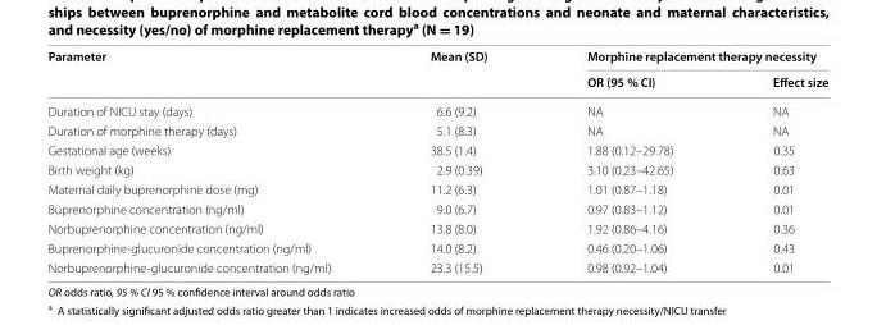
<table><thead><tr><td rowspan="2">Parameter</td><td rowspan="2">Mean (SD)</td><td colspan="2">Morphine replacement therapy necessity</td></tr><tr><td>OR (95 % CI)</td><td>Effect size</td></tr></thead><tbody><tr><td>Duration of NICU stay (days)</td><td>6.6 (9.2)</td><td>NA</td><td>NA</td></tr><tr><td>Duration of morphine therapy (days)</td><td>5.1 (8.3)</td><td>NA</td><td>NA</td></tr><tr><td>Gestational age (weeks)</td><td>38.5 (1.4)</td><td>1.88 (0.12–29.78)</td><td>0.35</td></tr><tr><td>Birth weight (kg)</td><td>2.9 (0.39)</td><td>3.10 (0.23–42.65)</td><td>0.63</td></tr><tr><td>Maternal daily buprenorphine dose (mg)</td><td>11.2 (6.3)</td><td>1.01 (0.87–1.18)</td><td>0.01</td></tr><tr><td>Buprenorphine concentration (ng/ml)</td><td>9.0 (6.7)</td><td>0.97 (0.83–1.12)</td><td>0.01</td></tr><tr><td>Norbuprenorphine concentration (ng/ml)</td><td>13.8 (8.0)</td><td>1.92 (0.86–4.16)</td><td>0.36</td></tr><tr><td>Buprenorphine-glucuronide concentration (ng/ml)</td><td>14.0 (8.2)</td><td>0.46 (0.20–1.06)</td><td>0.43</td></tr><tr><td>Norbuprenorphine-glucuronide concentration (ng/ml)</td><td>23.3 (15.5)</td><td>0.98 (0.92–1.04)</td><td>0.01</td></tr></tbody></table>